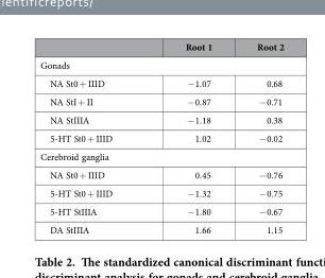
<table><thead><tr><td></td><td>Root 1</td><td>Root 2</td></tr></thead><tbody><tr><td colspan="3">Gonads</td></tr><tr><td>NA St0 + IIID</td><td>− 1.07</td><td>0.68</td></tr><tr><td>NA StI + II</td><td>− 0.87</td><td>− 0.71</td></tr><tr><td>NA StIIIA</td><td>− 1.18</td><td>0.38</td></tr><tr><td>5-HT St0 + IIID</td><td>1.02</td><td>− 0.02</td></tr><tr><td colspan="3">Cerebroid ganglia</td></tr><tr><td>NA St0 + IIID</td><td>0.45</td><td>− 0.76</td></tr><tr><td>5-HT St0 + IIID</td><td>− 1.32</td><td>− 0.75</td></tr><tr><td>5-HT StIIIA</td><td>− 1.80</td><td>− 0.67</td></tr><tr><td>DA StIIIA</td><td>1.66</td><td>1.15</td></tr></tbody></table>